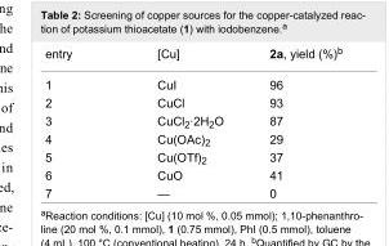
<table><tbody><tr><td>entry</td><td>[Cu]</td><td>2a, yield (%)<sup>b</sup></td></tr><tr><td>1</td><td>CuI</td><td>96</td></tr><tr><td>2</td><td>CuCl</td><td>93</td></tr><tr><td>3</td><td>CuCl<sub>2</sub>·2H<sub>2</sub>O</td><td>87</td></tr><tr><td>4</td><td>Cu(OAc)<sub>2</sub></td><td>29</td></tr><tr><td>5</td><td>Cu(OTf)<sub>2</sub></td><td>37</td></tr><tr><td>6</td><td>CuO</td><td>41</td></tr><tr><td>7</td><td>—</td><td>0</td></tr></tbody></table>